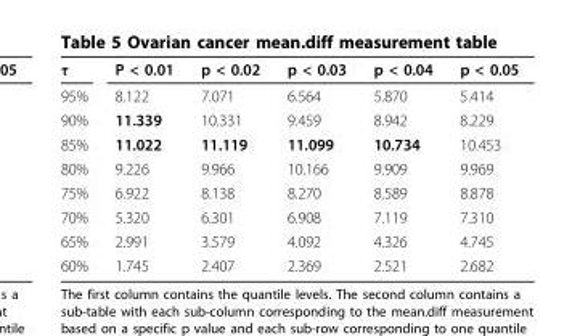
<table><tbody><tr><td>τ</td><td>P &lt; 0.01</td><td>p &lt; 0.02</td><td>p &lt; 0.03</td><td>p &lt; 0.04</td><td>p &lt; 0.05</td></tr><tr><td>95%</td><td>8.122</td><td>7.071</td><td>6.564</td><td>5.870</td><td>5.414</td></tr><tr><td>90%</td><td>11.339</td><td>10.331</td><td>9.459</td><td>8.942</td><td>8.229</td></tr><tr><td>85%</td><td>11.022</td><td>11.119</td><td>11.099</td><td>10.734</td><td>10.453</td></tr><tr><td>80%</td><td>9.226</td><td>9.966</td><td>10.166</td><td>9.909</td><td>9.969</td></tr><tr><td>75%</td><td>6.922</td><td>8.138</td><td>8.270</td><td>8.589</td><td>8.878</td></tr><tr><td>70%</td><td>5.320</td><td>6.301</td><td>6.908</td><td>7.119</td><td>7.310</td></tr><tr><td>65%</td><td>2.991</td><td>3.579</td><td>4.092</td><td>4.326</td><td>4.745</td></tr><tr><td>60%</td><td>1.745</td><td>2.407</td><td>2.369</td><td>2.521</td><td>2.682</td></tr></tbody></table>